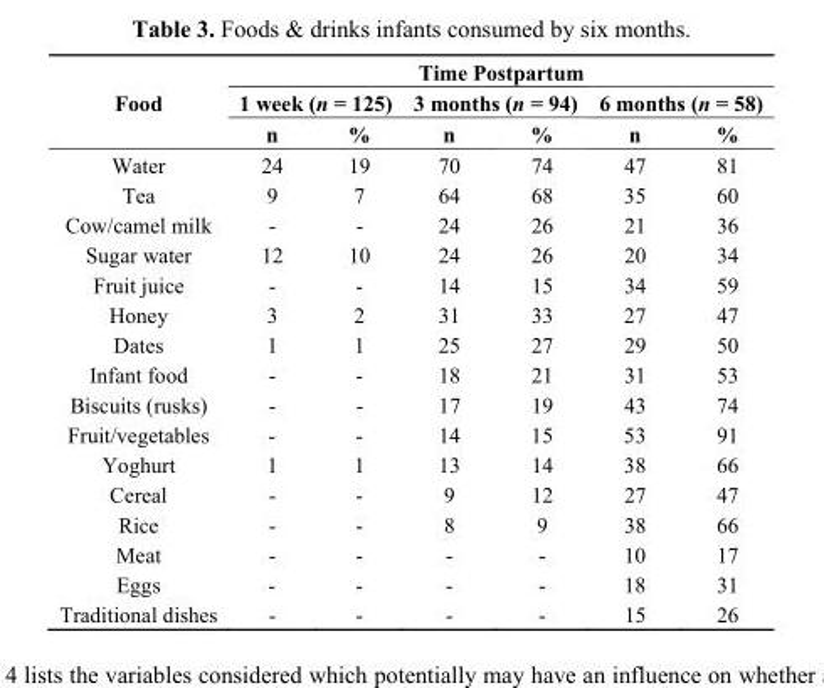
<table><thead><tr><td rowspan="3">Food</td><td colspan="6">Time Postpartum</td></tr><tr><td colspan="2">1 week (n = 125)</td><td colspan="2">3 months (n = 94)</td><td colspan="2">6 months (n = 58)</td></tr><tr><td>n</td><td>%</td><td>n</td><td>%</td><td>n</td><td>%</td></tr></thead><tbody><tr><td>Water</td><td>24</td><td>19</td><td>70</td><td>74</td><td>47</td><td>81</td></tr><tr><td>Tea</td><td>9</td><td>7</td><td>64</td><td>68</td><td>35</td><td>60</td></tr><tr><td>Cow/camel milk</td><td>-</td><td>-</td><td>24</td><td>26</td><td>21</td><td>36</td></tr><tr><td>Sugar water</td><td>12</td><td>10</td><td>24</td><td>26</td><td>20</td><td>34</td></tr><tr><td>Fruit juice</td><td>-</td><td>-</td><td>14</td><td>15</td><td>34</td><td>59</td></tr><tr><td>Honey</td><td>3</td><td>2</td><td>31</td><td>33</td><td>27</td><td>47</td></tr><tr><td>Dates</td><td>1</td><td>1</td><td>25</td><td>27</td><td>29</td><td>50</td></tr><tr><td>Infant food</td><td>-</td><td>-</td><td>18</td><td>21</td><td>31</td><td>53</td></tr><tr><td>Biscuits (rusks)</td><td>-</td><td>-</td><td>17</td><td>19</td><td>43</td><td>74</td></tr><tr><td>Fruit/vegetables</td><td>-</td><td>-</td><td>14</td><td>15</td><td>53</td><td>91</td></tr><tr><td>Yoghurt</td><td>1</td><td>1</td><td>13</td><td>14</td><td>38</td><td>66</td></tr><tr><td>Cereal</td><td>-</td><td>-</td><td>9</td><td>12</td><td>27</td><td>47</td></tr><tr><td>Rice</td><td>-</td><td>-</td><td>8</td><td>9</td><td>38</td><td>66</td></tr><tr><td>Meat</td><td>-</td><td>-</td><td>-</td><td>-</td><td>10</td><td>17</td></tr><tr><td>Eggs</td><td>-</td><td>-</td><td>-</td><td>-</td><td>18</td><td>31</td></tr><tr><td>Traditional dishes</td><td>-</td><td>-</td><td>-</td><td>-</td><td>15</td><td>26</td></tr></tbody></table>